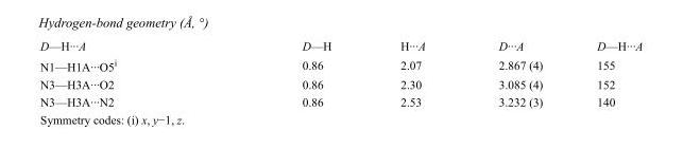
<table><tbody><tr><td>D—H···A</td><td>D—H</td><td>H···A</td><td>D···A</td><td>D—H···A</td></tr><tr><td>N1—H1A···O5<sup>i</sup></td><td>0.86</td><td>2.07</td><td>2.867 (4)</td><td>155</td></tr><tr><td>N3—H3A···O2</td><td>0.86</td><td>2.30</td><td>3.085 (4)</td><td>152</td></tr><tr><td>N3—H3A···N2</td><td>0.86</td><td>2.53</td><td>3.232 (3)</td><td>140</td></tr></tbody></table>